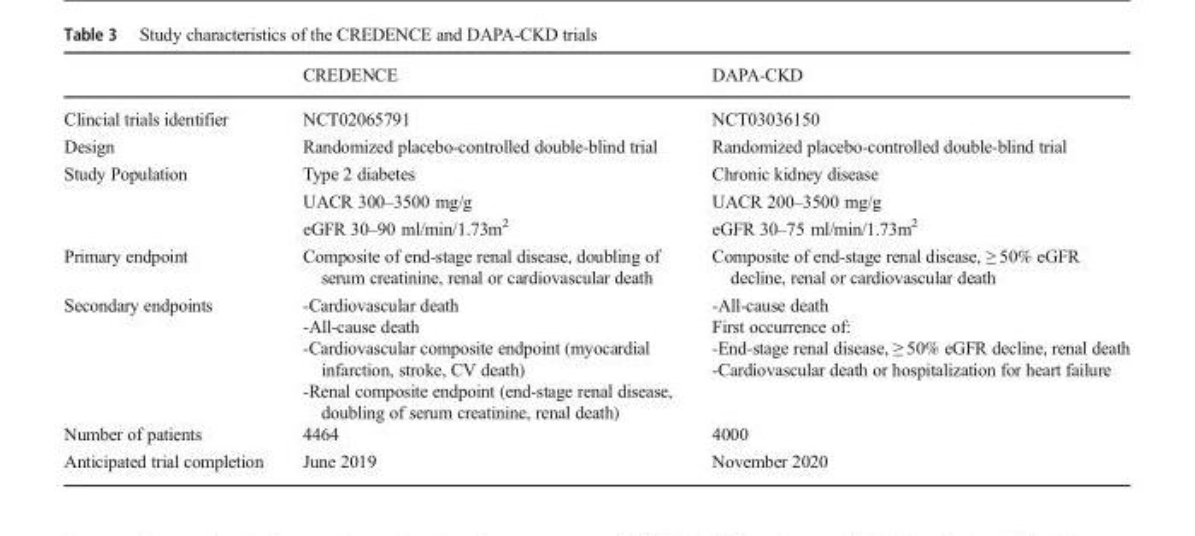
<table><thead><tr><td></td><td>CREDENCE</td><td>DAPA-CKD</td></tr></thead><tbody><tr><td>Clincial trials identifier</td><td>NCT02065791</td><td>NCT03036150</td></tr><tr><td>Design</td><td>Randomized placebo-controlled double-blind trial</td><td>Randomized placebo-controlled double-blind trial</td></tr><tr><td rowspan="3">Study Population</td><td>Type 2 diabetes</td><td>Chronic kidney disease</td></tr><tr><td>UACR 300–3500 mg/g</td><td>UACR 200–3500 mg/g</td></tr><tr><td>eGFR 30–90 ml/min/1.73m<sup>2</sup></td><td>eGFR 30–75 ml/min/1.73m<sup>2</sup></td></tr><tr><td>Primary endpoint</td><td>Composite of end-stage renal disease, doubling of serum creatinine, renal or cardiovascular death</td><td>Composite of end-stage renal disease, ≥ 50% eGFR decline, renal or cardiovascular death</td></tr><tr><td>Secondary endpoints</td><td>-Cardiovascular death -All-cause death -Cardiovascular composite endpoint (myocardial infarction, stroke, CV death) -Renal composite endpoint (end-stage renal disease, doubling of serum creatinine, renal death)</td><td>-All-cause death First occurrence of: -End-stage renal disease, ≥ 50% eGFR decline, renal death -Cardiovascular death or hospitalization for heart failure</td></tr><tr><td>Number of patients</td><td>4464</td><td>4000</td></tr><tr><td>Anticipated trial completion</td><td>June 2019</td><td>November 2020</td></tr></tbody></table>